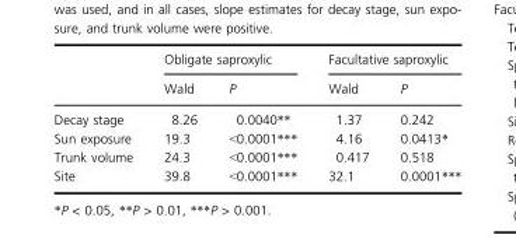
<table><thead><tr><td rowspan="2"></td><td colspan="2">Obligate saproxylic</td><td colspan="2">Facultative saproxylic</td></tr><tr><td>Wald</td><td>P</td><td>Wald</td><td>P</td></tr></thead><tbody><tr><td>Decay stage</td><td>8.26</td><td>0.0040**</td><td>1.37</td><td>0.242</td></tr><tr><td>Sun exposure</td><td>19.3</td><td>&lt;0.0001***</td><td>4.16</td><td>0.0413*</td></tr><tr><td>Trunk volume</td><td>24.3</td><td>&lt;0.0001***</td><td>0.417</td><td>0.518</td></tr><tr><td>Site</td><td>39.8</td><td>&lt;0.0001***</td><td>32.1</td><td>0.0001***</td></tr></tbody></table>